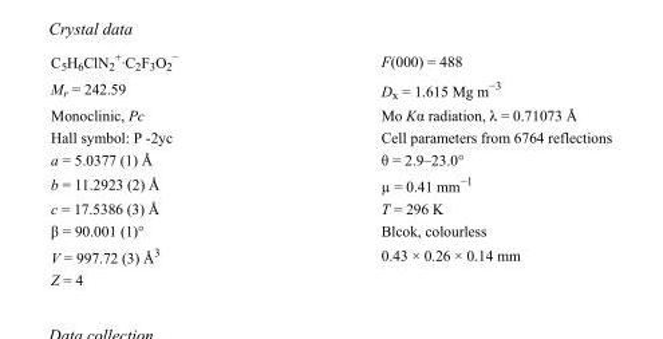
<table><tbody><tr><td>C<sub>5</sub>H<sub>6</sub>ClN<sub>2</sub> <sup>+</sup>·C<sub>2</sub>F<sub>3</sub>O<sub>2</sub> <sup>−</sup></td><td>F(000) = 488</td></tr><tr><td>M<sub>r</sub> = 242.59</td><td>D<sub>x</sub> = 1.615 Mg m<sup>−3</sup></td></tr><tr><td>Monoclinic, Pc</td><td>Mo Kα radiation, λ = 0.71073 Å</td></tr><tr><td>Hall symbol: P -2yc</td><td>Cell parameters from 6764 reflections</td></tr><tr><td>a = 5.0377 (1) Å</td><td>θ = 2.9–23.0°</td></tr><tr><td>b = 11.2923 (2) Å</td><td>µ = 0.41 mm<sup>−1</sup></td></tr><tr><td>c = 17.5386 (3) Å</td><td>T = 296 K</td></tr><tr><td>β = 90.001 (1)°</td><td>Blcok, colourless</td></tr><tr><td>V = 997.72 (3) Å<sup>3</sup></td><td>0.43 × 0.26 × 0.14 mm</td></tr><tr><td>Z = 4</td><td></td></tr></tbody></table>